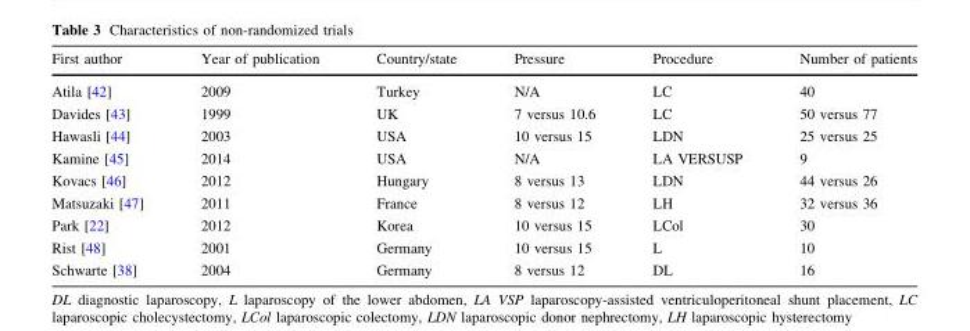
<table><thead><tr><td>First author</td><td>Year of publication</td><td>Country/state</td><td>Pressure</td><td>Procedure</td><td>Number of patients</td></tr></thead><tbody><tr><td>Atila [42]</td><td>2009</td><td>Turkey</td><td>N/A</td><td>LC</td><td>40</td></tr><tr><td>Davides [43]</td><td>1999</td><td>UK</td><td>7 versus 10.6</td><td>LC</td><td>50 versus 77</td></tr><tr><td>Hawasli [44]</td><td>2003</td><td>USA</td><td>10 versus 15</td><td>LDN</td><td>25 versus 25</td></tr><tr><td>Kamine [45]</td><td>2014</td><td>USA</td><td>N/A</td><td>LA VERSUSP</td><td>9</td></tr><tr><td>Kovacs [46]</td><td>2012</td><td>Hungary</td><td>8 versus 13</td><td>LDN</td><td>44 versus 26</td></tr><tr><td>Matsuzaki [47]</td><td>2011</td><td>France</td><td>8 versus 12</td><td>LH</td><td>32 versus 36</td></tr><tr><td>Park [22]</td><td>2012</td><td>Korea</td><td>10 versus 15</td><td>LCol</td><td>30</td></tr><tr><td>Rist [48]</td><td>2001</td><td>Germany</td><td>10 versus 15</td><td>L</td><td>10</td></tr><tr><td>Schwarte [38]</td><td>2004</td><td>Germany</td><td>8 versus 12</td><td>DL</td><td>16</td></tr></tbody></table>